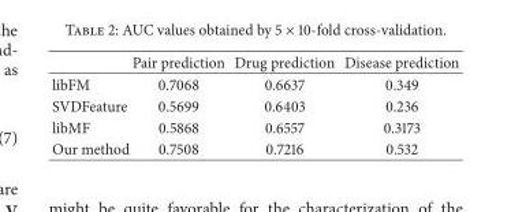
<table><thead><tr><td></td><td>Pair prediction</td><td>Drug prediction</td><td>Disease prediction</td></tr></thead><tbody><tr><td>libFM</td><td>0.7068</td><td>0.6637</td><td>0.349</td></tr><tr><td>SVDFeature</td><td>0.5699</td><td>0.6403</td><td>0.236</td></tr><tr><td>libMF</td><td>0.5868</td><td>0.6557</td><td>0.3173</td></tr><tr><td>Our method</td><td>0.7508</td><td>0.7216</td><td>0.532</td></tr></tbody></table>